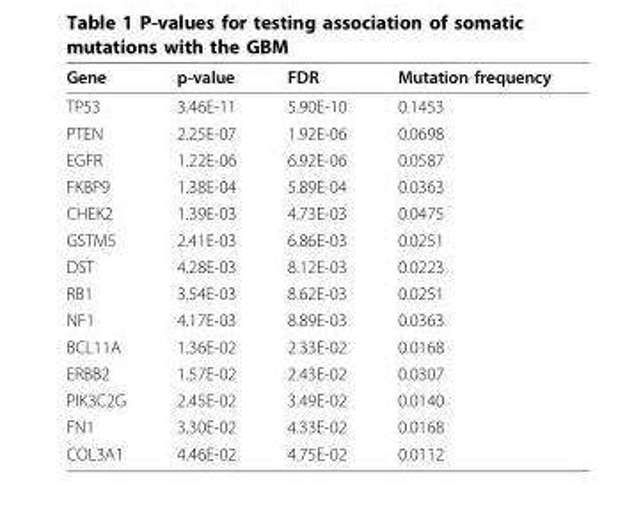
<table><thead><tr><td>Gene</td><td>p-value</td><td>FDR</td><td>Mutation frequency</td></tr></thead><tbody><tr><td>TP53</td><td>3.46E-11</td><td>5.90E-10</td><td>0.1453</td></tr><tr><td>PTEN</td><td>2.25E-07</td><td>1.92E-06</td><td>0.0698</td></tr><tr><td>EGFR</td><td>1.22E-06</td><td>6.92E-06</td><td>0.0587</td></tr><tr><td>FKBP9</td><td>1.38E-04</td><td>5.89E-04</td><td>0.0363</td></tr><tr><td>CHEK2</td><td>1.39E-03</td><td>4.73E-03</td><td>0.0475</td></tr><tr><td>GSTM5</td><td>2.41E-03</td><td>6.86E-03</td><td>0.0251</td></tr><tr><td>DST</td><td>4.28E-03</td><td>8.12E-03</td><td>0.0223</td></tr><tr><td>RB1</td><td>3.54E-03</td><td>8.62E-03</td><td>0.0251</td></tr><tr><td>NF1</td><td>4.17E-03</td><td>8.89E-03</td><td>0.0363</td></tr><tr><td>BCL11A</td><td>1.36E-02</td><td>2.33E-02</td><td>0.0168</td></tr><tr><td>ERBB2</td><td>1.57E-02</td><td>2.43E-02</td><td>0.0307</td></tr><tr><td>PIK3C2G</td><td>2.45E-02</td><td>3.49E-02</td><td>0.0140</td></tr><tr><td>FN1</td><td>3.30E-02</td><td>4.33E-02</td><td>0.0168</td></tr><tr><td>COL3A1</td><td>4.46E-02</td><td>4.75E-02</td><td>0.0112</td></tr></tbody></table>